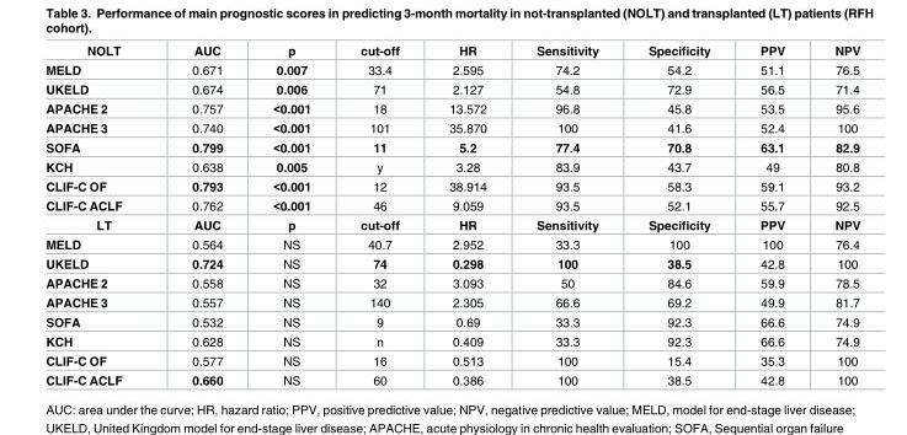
<table><tbody><tr><td>NOLT</td><td>AUC</td><td>p</td><td>cut-off</td><td>HR</td><td>Sensitivity</td><td>Specificity</td><td>PPV</td><td>NPV</td></tr><tr><td>MELD</td><td>0.671</td><td>0.007</td><td>33.4</td><td>2.595</td><td>74.2</td><td>54.2</td><td>51.1</td><td>76.5</td></tr><tr><td>UKELD</td><td>0.674</td><td>0.006</td><td>71</td><td>2.127</td><td>54.8</td><td>72.9</td><td>56.5</td><td>71.4</td></tr><tr><td>APACHE 2</td><td>0.757</td><td>&lt;0.001</td><td>18</td><td>13.572</td><td>96.8</td><td>45.8</td><td>53.5</td><td>95.6</td></tr><tr><td>APACHE 3</td><td>0.740</td><td>&lt;0.001</td><td>101</td><td>35.870</td><td>100</td><td>41.6</td><td>52.4</td><td>100</td></tr><tr><td>SOFA</td><td>0.799</td><td>&lt;0.001</td><td>11</td><td>5.2</td><td>77.4</td><td>70.8</td><td>63.1</td><td>82.9</td></tr><tr><td>KCH</td><td>0.638</td><td>0.005</td><td>y</td><td>3.28</td><td>83.9</td><td>43.7</td><td>49</td><td>80.8</td></tr><tr><td>CLIF-C OF</td><td>0.793</td><td>&lt;0.001</td><td>12</td><td>38.914</td><td>93.5</td><td>58.3</td><td>59.1</td><td>93.2</td></tr><tr><td>CLIF-C ACLF</td><td>0.762</td><td>&lt;0.001</td><td>46</td><td>9.059</td><td>93.5</td><td>52.1</td><td>55.7</td><td>92.5</td></tr><tr><td>LT</td><td>AUC</td><td>p</td><td>cut-off</td><td>HR</td><td>Sensitivity</td><td>Specificity</td><td>PPV</td><td>NPV</td></tr><tr><td>MELD</td><td>0.564</td><td>NS</td><td>40.7</td><td>2.952</td><td>33.3</td><td>100</td><td>100</td><td>76.4</td></tr><tr><td>UKELD</td><td>0.724</td><td>NS</td><td>74</td><td>0.298</td><td>100</td><td>38.5</td><td>42.8</td><td>100</td></tr><tr><td>APACHE 2</td><td>0.558</td><td>NS</td><td>32</td><td>3.093</td><td>50</td><td>84.6</td><td>59.9</td><td>78.5</td></tr><tr><td>APACHE 3</td><td>0.557</td><td>NS</td><td>140</td><td>2.305</td><td>66.6</td><td>69.2</td><td>49.9</td><td>81.7</td></tr><tr><td>SOFA</td><td>0.532</td><td>NS</td><td>9</td><td>0.69</td><td>33.3</td><td>92.3</td><td>66.6</td><td>74.9</td></tr><tr><td>KCH</td><td>0.628</td><td>NS</td><td>n</td><td>0.409</td><td>33.3</td><td>92.3</td><td>66.6</td><td>74.9</td></tr><tr><td>CLIF-C OF</td><td>0.577</td><td>NS</td><td>16</td><td>0.513</td><td>100</td><td>15.4</td><td>35.3</td><td>100</td></tr><tr><td>CLIF-C ACLF</td><td>0.660</td><td>NS</td><td>60</td><td>0.386</td><td>100</td><td>38.5</td><td>42.8</td><td>100</td></tr></tbody></table>